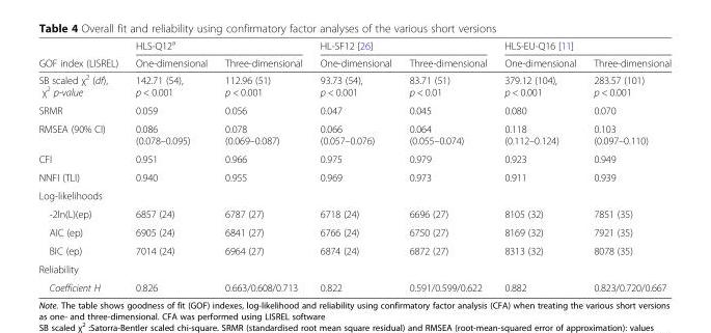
<table><thead><tr><td rowspan="2">GOF index (LISREL)</td><td colspan="2">HLS-Q12<sup>a</sup></td><td colspan="2">HL-SF12 [26]</td><td colspan="2">HLS-EU-Q16 [11]</td></tr><tr><td>One-dimensional</td><td>Three-dimensional</td><td>One-dimensional</td><td>Three-dimensional</td><td>One-dimensional</td><td>Three-dimensional</td></tr></thead><tbody><tr><td>SB scaled χ<sup>2</sup> (df), χ<sup>2</sup> p-value</td><td>142.71 (54), p &lt; 0.001</td><td>112.96 (51) p &lt; 0.001</td><td>93.73 (54), p &lt; 0.001</td><td>83.71 (51) p &lt; 0.01</td><td>379.12 (104), p &lt; 0.001</td><td>283.57 (101) p &lt; 0.001</td></tr><tr><td>SRMR</td><td>0.059</td><td>0.056</td><td>0.047</td><td>0.045</td><td>0.080</td><td>0.070</td></tr><tr><td>RMSEA (90% CI)</td><td>0.086 (0.078–0.095)</td><td>0.078 (0.069–0.087)</td><td>0.066 (0.057–0.076)</td><td>0.064 (0.055–0.074)</td><td>0.118 (0.112–0.124)</td><td>0.103 (0.097–0.110)</td></tr><tr><td>CFI</td><td>0.951</td><td>0.966</td><td>0.975</td><td>0.979</td><td>0.923</td><td>0.949</td></tr><tr><td>NNFI (TLI)</td><td>0.940</td><td>0.955</td><td>0.969</td><td>0.973</td><td>0.911</td><td>0.939</td></tr><tr><td colspan="7">Log-likelihoods</td></tr><tr><td>-2ln(L)(ep)</td><td>6857 (24)</td><td>6787 (27)</td><td>6718 (24)</td><td>6696 (27)</td><td>8105 (32)</td><td>7851 (35)</td></tr><tr><td>AIC (ep)</td><td>6905 (24)</td><td>6841 (27)</td><td>6766 (24)</td><td>6750 (27)</td><td>8169 (32)</td><td>7921 (35)</td></tr><tr><td>BIC (ep)</td><td>7014 (24)</td><td>6964 (27)</td><td>6874 (24)</td><td>6872 (27)</td><td>8313 (32)</td><td>8078 (35)</td></tr><tr><td colspan="7">Reliability</td></tr><tr><td>Coefficient H</td><td>0.826</td><td>0.663/0.608/0.713</td><td>0.822</td><td>0.591/0.599/0.622</td><td>0.882</td><td>0.823/0.720/0.667</td></tr></tbody></table>